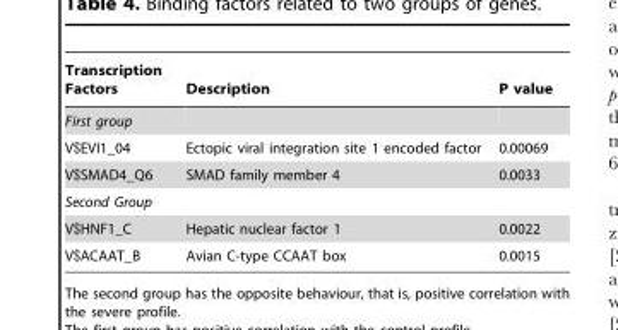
<table><thead><tr><td>Transcription Factors</td><td>Description</td><td>P value</td></tr></thead><tbody><tr><td colspan="3">First group</td></tr><tr><td>V$EVI1_04</td><td>Ectopic viral integration site 1 encoded factor</td><td>0.00069</td></tr><tr><td>V$SMAD4_Q6</td><td>SMAD family member 4</td><td>0.0033</td></tr><tr><td colspan="3">Second Group</td></tr><tr><td>V$HNF1_C</td><td>Hepatic nuclear factor 1</td><td>0.0022</td></tr><tr><td>V$ACAAT_B</td><td>Avian C-type CCAAT box</td><td>0.0015</td></tr></tbody></table>